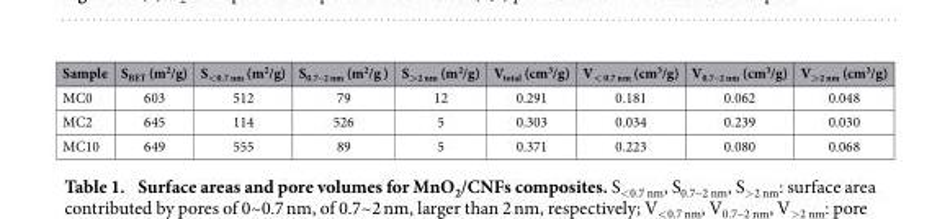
<table><thead><tr><td>Sample</td><td>S<sub>BET</sub> (m<sup>2</sup>/g)</td><td>S<sub>&lt;0.7 nm</sub> (m<sup>2</sup>/g)</td><td>S<sub>0.7~2 nm</sub> (m<sup>2</sup>/g )</td><td>S<sub>&gt;2 nm</sub> (m<sup>2</sup>/g)</td><td>V<sub>total</sub> (cm<sup>3</sup>/g)</td><td>V<sub>&lt; 0.7 nm</sub> (cm<sup>3</sup>/g)</td><td>V<sub>0.7~2 nm</sub> (cm<sup>3</sup>/g)</td><td>V<sub>&gt;2 nm</sub> (cm<sup>3</sup>/g)</td></tr></thead><tbody><tr><td>MC0</td><td>603</td><td>512</td><td>79</td><td>12</td><td>0.291</td><td>0.181</td><td>0.062</td><td>0.048</td></tr><tr><td>MC2</td><td>645</td><td>114</td><td>526</td><td>5</td><td>0.303</td><td>0.034</td><td>0.239</td><td>0.030</td></tr><tr><td>MC10</td><td>649</td><td>555</td><td>89</td><td>5</td><td>0.371</td><td>0.223</td><td>0.080</td><td>0.068</td></tr></tbody></table>